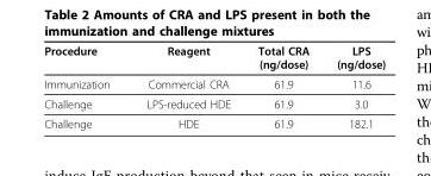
<table><thead><tr><td>Procedure</td><td>Reagent</td><td>Total CRA (ng/dose)</td><td>LPS (ng/dose)</td></tr></thead><tbody><tr><td>Immunization</td><td>Commercial CRA</td><td>61.9</td><td>11.6</td></tr><tr><td>Challenge</td><td>LPS-reduced HDE</td><td>61.9</td><td>3.0</td></tr><tr><td>Challenge</td><td>HDE</td><td>61.9</td><td>182.1</td></tr></tbody></table>